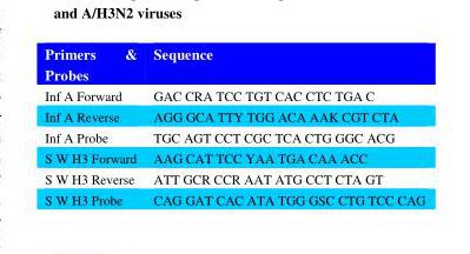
<table><thead><tr><td>Sequence</td><td>Primers &amp; Probes</td></tr></thead><tbody><tr><td>GAC CRA TCC TGT CAC CTC TGA C</td><td>Inf A Forward</td></tr><tr><td>AGG GCA TTY TGG ACA AAK CGT CTA</td><td>Inf A Reverse</td></tr><tr><td>TGC AGT CCT CGC TCA CTG GGC ACG</td><td>Inf A Probe</td></tr><tr><td>AAG CAT TCC YAA TGA CAA ACC</td><td>S W H3 Forward</td></tr><tr><td>ATT GCR CCR AAT ATG CCT CTA GT</td><td>S W H3 Reverse</td></tr><tr><td>CAG GAT CAC ATA TGG GSC CTG TCC CAG</td><td>S W H3 Probe</td></tr></tbody></table>